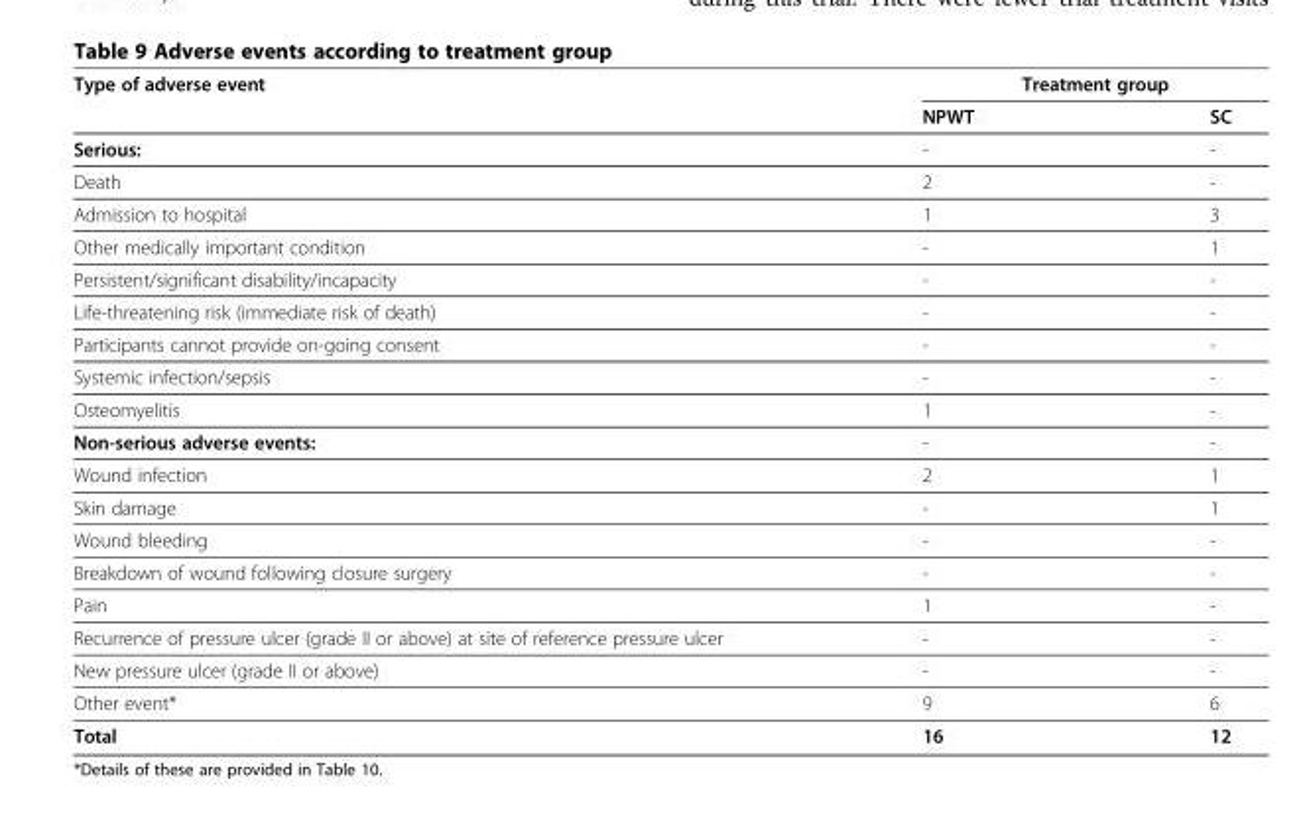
<table><thead><tr><td rowspan="2">Type of adverse event</td><td colspan="2">Treatment group</td></tr><tr><td>NPWT</td><td>SC</td></tr></thead><tbody><tr><td>Serious:</td><td>-</td><td>-</td></tr><tr><td>Death</td><td>2</td><td>-</td></tr><tr><td>Admission to hospital</td><td>1</td><td>3</td></tr><tr><td>Other medically important condition</td><td>-</td><td>1</td></tr><tr><td>Persistent/significant disability/incapacity</td><td>-</td><td>-</td></tr><tr><td>Life-threatening risk (immediate risk of death)</td><td>-</td><td>-</td></tr><tr><td>Participants cannot provide on-going consent</td><td>-</td><td>-</td></tr><tr><td>Systemic infection/sepsis</td><td>-</td><td>-</td></tr><tr><td>Osteomyelitis</td><td>1</td><td>-</td></tr><tr><td>Non-serious adverse events:</td><td>-</td><td>-</td></tr><tr><td>Wound infection</td><td>2</td><td>1</td></tr><tr><td>Skin damage</td><td>-</td><td>1</td></tr><tr><td>Wound bleeding</td><td>-</td><td>-</td></tr><tr><td>Breakdown of wound following closure surgery</td><td>-</td><td>-</td></tr><tr><td>Pain</td><td>1</td><td>-</td></tr><tr><td>Recurrence of pressure ulcer (grade II or above) at site of reference pressure ulcer</td><td>-</td><td>-</td></tr><tr><td>New pressure ulcer (grade II or above)</td><td>-</td><td>-</td></tr><tr><td>Other event*</td><td>9</td><td>6</td></tr><tr><td>Total</td><td>16</td><td>12</td></tr></tbody></table>